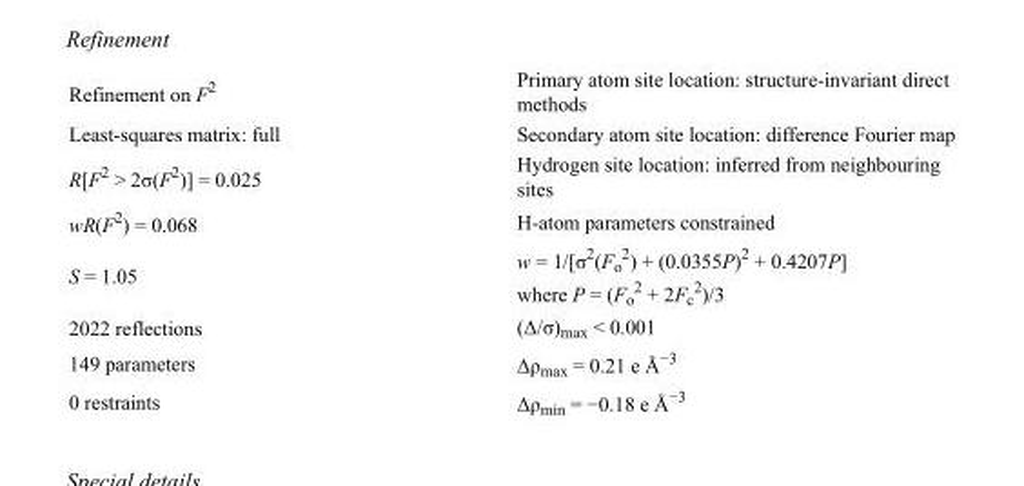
<table><tbody><tr><td>Refinement on F<sup>2</sup></td><td>Primary atom site location: structure-invariant direct methods</td></tr><tr><td>Least-squares matrix: full</td><td>Secondary atom site location: difference Fourier map</td></tr><tr><td>R[F<sup>2</sup> &gt; 2σ(F<sup>2</sup>)] = 0.025</td><td>Hydrogen site location: inferred from neighbouring sites</td></tr><tr><td>wR(F<sup>2</sup>) = 0.068</td><td>H-atom parameters constrained</td></tr><tr><td>S = 1.05</td><td>w = 1/[σ<sup>2</sup>(F<sub>o</sub> <sup>2</sup>) + (0.0355P)<sup>2</sup> + 0.4207P] where P = (F<sub>o</sub> <sup>2</sup> + 2F<sub>c</sub> <sup>2</sup>)/3</td></tr><tr><td>2022 reflections</td><td>(Δ/σ)<sub>max</sub> &lt; 0.001</td></tr><tr><td>149 parameters</td><td>Δρ<sub>max</sub> = 0.21 e Å<sup>−3</sup></td></tr><tr><td>0 restraints</td><td>Δρ<sub>min</sub> = −0.18 e Å<sup>−3</sup></td></tr></tbody></table>